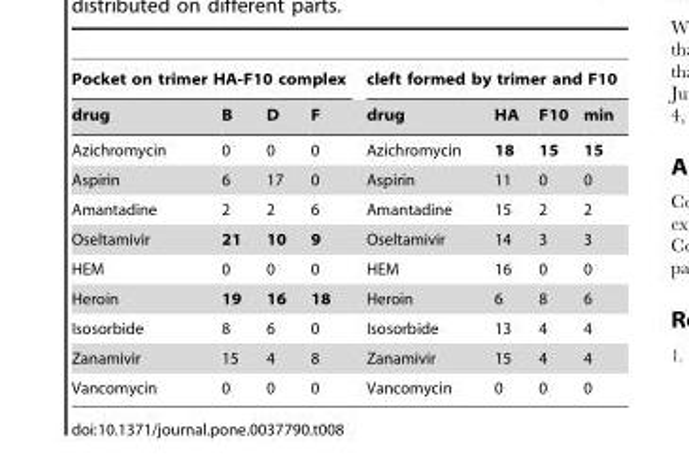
<table><thead><tr><td colspan="4">Pocket on trimer HA-F10 complex</td><td colspan="4">cleft formed by trimer and F10</td></tr><tr><td>drug</td><td>B</td><td>D</td><td>F</td><td>drug</td><td>HA</td><td>F10</td><td>min</td></tr></thead><tbody><tr><td>Azichromycin</td><td>0</td><td>0</td><td>0</td><td>Azichromycin</td><td>18</td><td>15</td><td>15</td></tr><tr><td>Aspirin</td><td>6</td><td>17</td><td>0</td><td>Aspirin</td><td>11</td><td>0</td><td>0</td></tr><tr><td>Amantadine</td><td>2</td><td>2</td><td>6</td><td>Amantadine</td><td>15</td><td>2</td><td>2</td></tr><tr><td>Oseltamivir</td><td>21</td><td>10</td><td>9</td><td>Oseltamivir</td><td>14</td><td>3</td><td>3</td></tr><tr><td>HEM</td><td>0</td><td>0</td><td>0</td><td>HEM</td><td>16</td><td>0</td><td>0</td></tr><tr><td>Heroin</td><td>19</td><td>16</td><td>18</td><td>Heroin</td><td>6</td><td>8</td><td>6</td></tr><tr><td>Isosorbide</td><td>8</td><td>6</td><td>0</td><td>Isosorbide</td><td>13</td><td>4</td><td>4</td></tr><tr><td>Zanamivir</td><td>15</td><td>4</td><td>8</td><td>Zanamivir</td><td>15</td><td>4</td><td>4</td></tr><tr><td>Vancomycin</td><td>0</td><td>0</td><td>0</td><td>Vancomycin</td><td>0</td><td>0</td><td>0</td></tr></tbody></table>